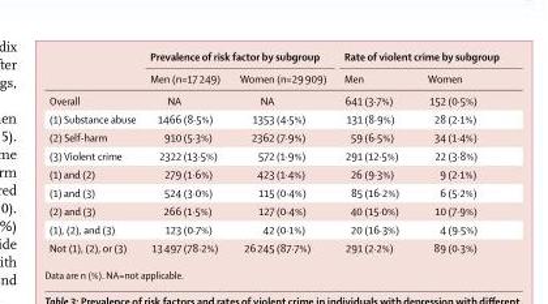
<table><thead><tr><td rowspan="2"></td><td colspan="2">Prevalence of risk factor by subgroup</td><td colspan="2">Rate of violent crime by subgroup</td></tr><tr><td>Men (n=17 249)</td><td>Women (n=29 909)</td><td>Men</td><td>Women</td></tr></thead><tbody><tr><td>Overall</td><td>NA</td><td>NA</td><td>641 (3·7%)</td><td>152 (0·5%)</td></tr><tr><td>(1) Substance abuse</td><td>1466 (8·5%)</td><td>1353 (4·5%)</td><td>131 (8·9%)</td><td>28 (2·1%)</td></tr><tr><td>(2) Self-harm</td><td>910 (5·3%)</td><td>2362 (7·9%)</td><td>59 (6·5%)</td><td>34 (1·4%)</td></tr><tr><td>(3) Violent crime</td><td>2322 (13·5%)</td><td>572 (1·9%)</td><td>291 (12·5%)</td><td>22 (3·8%)</td></tr><tr><td>(1) and (2)</td><td>279 (1·6%)</td><td>423 (1·4%)</td><td>26 (9·3%)</td><td>9 (2·1%)</td></tr><tr><td>(1) and (3)</td><td>524 (3·0%)</td><td>115 (0·4%)</td><td>85 (16·2%)</td><td>6 (5·2%)</td></tr><tr><td>(2) and (3)</td><td>266 (1·5%)</td><td>127 (0·4%)</td><td>40 (15·0%)</td><td>10 (7·9%)</td></tr><tr><td>(1), (2), and (3)</td><td>123 (0·7%)</td><td>42 (0·1%)</td><td>20 (16·3%)</td><td>4 (9·5%)</td></tr><tr><td>Not (1), (2), or (3)</td><td>13 497 (78·2%)</td><td>26 245 (87·7%)</td><td>291 (2·2%)</td><td>89 (0·3%)</td></tr></tbody></table>